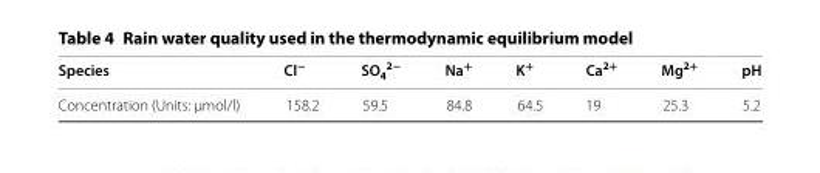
<table><thead><tr><td>Species</td><td>Cl<sup>−</sup></td><td>SO<sub>4</sub> <sup>2−</sup></td><td>Na<sup>+</sup></td><td>K<sup>+</sup></td><td>Ca<sup>2+</sup></td><td>Mg<sup>2+</sup></td><td>pH</td></tr></thead><tbody><tr><td>Concentration (Units: μmol/l)</td><td>158.2</td><td>59.5</td><td>84.8</td><td>64.5</td><td>19</td><td>25.3</td><td>5.2</td></tr></tbody></table>